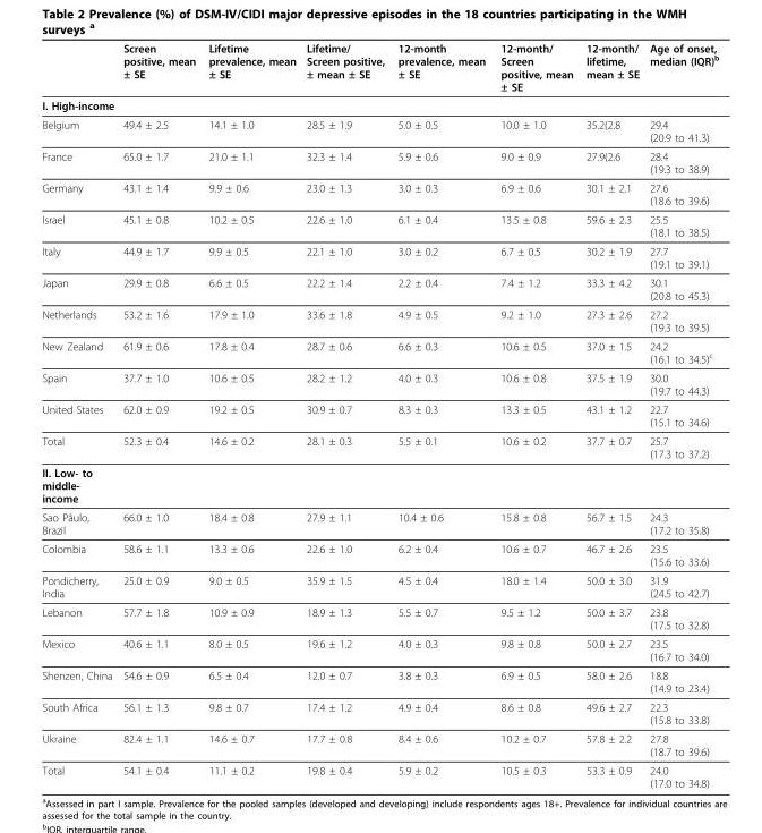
<table><thead><tr><td></td><td>Screen positive, mean ± SE</td><td>Lifetime prevalence, mean ± SE</td><td>Lifetime/ Screen positive, ± mean ± SE</td><td>12-month prevalence, mean ± SE</td><td>12-month/ Screen positive, mean ± SE</td><td>12-month/ lifetime, mean ± SE</td><td>Age of onset, median (IQR)<sup>b</sup></td></tr></thead><tbody><tr><td colspan="8">I. High-income</td></tr><tr><td>Belgium</td><td>49.4 ± 2.5</td><td>14.1 ± 1.0</td><td>28.5 ± 1.9</td><td>5.0 ± 0.5</td><td>10.0 ± 1.0</td><td>35.2(2.8</td><td>29.4 (20.9 to 41.3)</td></tr><tr><td>France</td><td>65.0 ± 1.7</td><td>21.0 ± 1.1</td><td>32.3 ± 1.4</td><td>5.9 ± 0.6</td><td>9.0 ± 0.9</td><td>27.9(2.6</td><td>28.4 (19.3 to 38.9)</td></tr><tr><td>Germany</td><td>43.1 ± 1.4</td><td>9.9 ± 0.6</td><td>23.0 ± 1.3</td><td>3.0 ± 0.3</td><td>6.9 ± 0.6</td><td>30.1 ± 2.1</td><td>27.6 (18.6 to 39.6)</td></tr><tr><td>Israel</td><td>45.1 ± 0.8</td><td>10.2 ± 0.5</td><td>22.6 ± 1.0</td><td>6.1 ± 0.4</td><td>13.5 ± 0.8</td><td>59.6 ± 2.3</td><td>25.5 (18.1 to 38.5)</td></tr><tr><td>Italy</td><td>44.9 ± 1.7</td><td>9.9 ± 0.5</td><td>22.1 ± 1.0</td><td>3.0 ± 0.2</td><td>6.7 ± 0.5</td><td>30.2 ± 1.9</td><td>27.7 (19.1 to 39.1)</td></tr><tr><td>Japan</td><td>29.9 ± 0.8</td><td>6.6 ± 0.5</td><td>22.2 ± 1.4</td><td>2.2 ± 0.4</td><td>7.4 ± 1.2</td><td>33.3 ± 4.2</td><td>30.1 (20.8 to 45.3)</td></tr><tr><td>Netherlands</td><td>53.2 ± 1.6</td><td>17.9 ± 1.0</td><td>33.6 ± 1.8</td><td>4.9 ± 0.5</td><td>9.2 ± 1.0</td><td>27.3 ± 2.6</td><td>27.2 (19.3 to 39.5)</td></tr><tr><td>New Zealand</td><td>61.9 ± 0.6</td><td>17.8 ± 0.4</td><td>28.7 ± 0.6</td><td>6.6 ± 0.3</td><td>10.6 ± 0.5</td><td>37.0 ± 1.5</td><td>24.2 (16.1 to 34.5)<sup>c</sup></td></tr><tr><td>Spain</td><td>37.7 ± 1.0</td><td>10.6 ± 0.5</td><td>28.2 ± 1.2</td><td>4.0 ± 0.3</td><td>10.6 ± 0.8</td><td>37.5 ± 1.9</td><td>30.0 (19.7 to 44.3)</td></tr><tr><td>United States</td><td>62.0 ± 0.9</td><td>19.2 ± 0.5</td><td>30.9 ± 0.7</td><td>8.3 ± 0.3</td><td>13.3 ± 0.5</td><td>43.1 ± 1.2</td><td>22.7 (15.1 to 34.6)</td></tr><tr><td>Total</td><td>52.3 ± 0.4</td><td>14.6 ± 0.2</td><td>28.1 ± 0.3</td><td>5.5 ± 0.1</td><td>10.6 ± 0.2</td><td>37.7 ± 0.7</td><td>25.7 (17.3 to 37.2)</td></tr><tr><td colspan="8">II. Low- to middle- income</td></tr><tr><td>Sao Pâulo, Brazil</td><td>66.0 ± 1.0</td><td>18.4 ± 0.8</td><td>27.9 ± 1.1</td><td>10.4 ± 0.6</td><td>15.8 ± 0.8</td><td>56.7 ± 1.5</td><td>24.3 (17.2 to 35.8)</td></tr><tr><td>Colombia</td><td>58.6 ± 1.1</td><td>13.3 ± 0.6</td><td>22.6 ± 1.0</td><td>6.2 ± 0.4</td><td>10.6 ± 0.7</td><td>46.7 ± 2.6</td><td>23.5 (15.6 to 33.6)</td></tr><tr><td>Pondicherry, India</td><td>25.0 ± 0.9</td><td>9.0 ± 0.5</td><td>35.9 ± 1.5</td><td>4.5 ± 0.4</td><td>18.0 ± 1.4</td><td>50.0 ± 3.0</td><td>31.9 (24.5 to 42.7)</td></tr><tr><td>Lebanon</td><td>57.7 ± 1.8</td><td>10.9 ± 0.9</td><td>18.9 ± 1.3</td><td>5.5 ± 0.7</td><td>9.5 ± 1.2</td><td>50.0 ± 3.7</td><td>23.8 (17.5 to 32.8)</td></tr><tr><td>Mexico</td><td>40.6 ± 1.1</td><td>8.0 ± 0.5</td><td>19.6 ± 1.2</td><td>4.0 ± 0.3</td><td>9.8 ± 0.8</td><td>50.0 ± 2.7</td><td>23.5 (16.7 to 34.0)</td></tr><tr><td>Shenzen, China</td><td>54.6 ± 0.9</td><td>6.5 ± 0.4</td><td>12.0 ± 0.7</td><td>3.8 ± 0.3</td><td>6.9 ± 0.5</td><td>58.0 ± 2.6</td><td>18.8 (14.9 to 23.4)</td></tr><tr><td>South Africa</td><td>56.1 ± 1.3</td><td>9.8 ± 0.7</td><td>17.4 ± 1.2</td><td>4.9 ± 0.4</td><td>8.6 ± 0.8</td><td>49.6 ± 2.7</td><td>22.3 (15.8 to 33.8)</td></tr><tr><td>Ukraine</td><td>82.4 ± 1.1</td><td>14.6 ± 0.7</td><td>17.7 ± 0.8</td><td>8.4 ± 0.6</td><td>10.2 ± 0.7</td><td>57.8 ± 2.2</td><td>27.8 (18.7 to 39.6)</td></tr><tr><td>Total</td><td>54.1 ± 0.4</td><td>11.1 ± 0.2</td><td>19.8 ± 0.4</td><td>5.9 ± 0.2</td><td>10.5 ± 0.3</td><td>53.3 ± 0.9</td><td>24.0 (17.0 to 34.8)</td></tr></tbody></table>